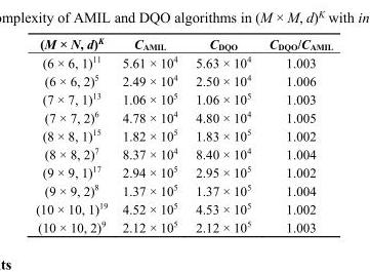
<table><thead><tr><td>(M × N, d)<sup>K</sup></td><td>C<sub>AMIL</sub></td><td>C<sub>DQO</sub></td><td>C<sub>DQO</sub>/C<sub>AMIL</sub></td></tr></thead><tbody><tr><td>(6 × 6, 1)<sup>11</sup></td><td>5.61 × 10<sup>4</sup></td><td>5.63 × 10<sup>4</sup></td><td>1.003</td></tr><tr><td>(6 × 6, 2)<sup>5</sup></td><td>2.49 × 10<sup>4</sup></td><td>2.50 × 10<sup>4</sup></td><td>1.006</td></tr><tr><td>(7 × 7, 1)<sup>13</sup></td><td>1.06 × 10<sup>5</sup></td><td>1.06 × 10<sup>5</sup></td><td>1.003</td></tr><tr><td>(7 × 7, 2)<sup>6</sup></td><td>4.78 × 10<sup>4</sup></td><td>4.80 × 10<sup>4</sup></td><td>1.005</td></tr><tr><td>(8 × 8, 1)<sup>15</sup></td><td>1.82 × 10<sup>5</sup></td><td>1.83 × 10<sup>5</sup></td><td>1.002</td></tr><tr><td>(8 × 8, 2)<sup>7</sup></td><td>8.37 × 10<sup>4</sup></td><td>8.40 × 10<sup>4</sup></td><td>1.004</td></tr><tr><td>(9 × 9, 1)<sup>17</sup></td><td>2.94 × 10<sup>5</sup></td><td>2.95 × 10<sup>5</sup></td><td>1.002</td></tr><tr><td>(9 × 9, 2)<sup>8</sup></td><td>1.37 × 10<sup>5</sup></td><td>1.37 × 10<sup>5</sup></td><td>1.004</td></tr><tr><td>(10 × 10, 1)<sup>19</sup></td><td>4.52 × 10<sup>5</sup></td><td>4.53 × 10<sup>5</sup></td><td>1.002</td></tr><tr><td>(10 × 10, 2)<sup>9</sup></td><td>2.12 × 10<sup>5</sup></td><td>2.12 × 10<sup>5</sup></td><td>1.003</td></tr></tbody></table>